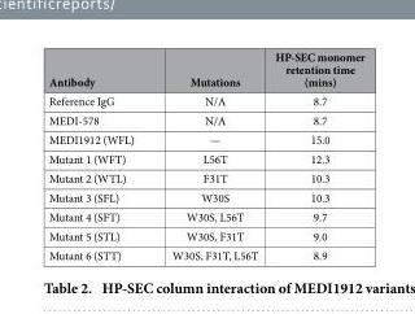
<table><thead><tr><td>Antibody</td><td>Mutations</td><td>HP-SEC monomer retention time (mins)</td></tr></thead><tbody><tr><td>Reference IgG</td><td>N/A</td><td>8.7</td></tr><tr><td>MEDI-578</td><td>N/A</td><td>8.7</td></tr><tr><td>MEDI1912 (WFL)</td><td>—</td><td>15.0</td></tr><tr><td>Mutant 1 (WFT)</td><td>L56T</td><td>12.3</td></tr><tr><td>Mutant 2 (WTL)</td><td>F31T</td><td>10.3</td></tr><tr><td>Mutant 3 (SFL)</td><td>W30S</td><td>10.3</td></tr><tr><td>Mutant 4 (SFT)</td><td>W30S, L56T</td><td>9.7</td></tr><tr><td>Mutant 5 (STL)</td><td>W30S, F31T</td><td>9.0</td></tr><tr><td>Mutant 6 (STT)</td><td>W30S, F31T, L56T</td><td>8.9</td></tr></tbody></table>